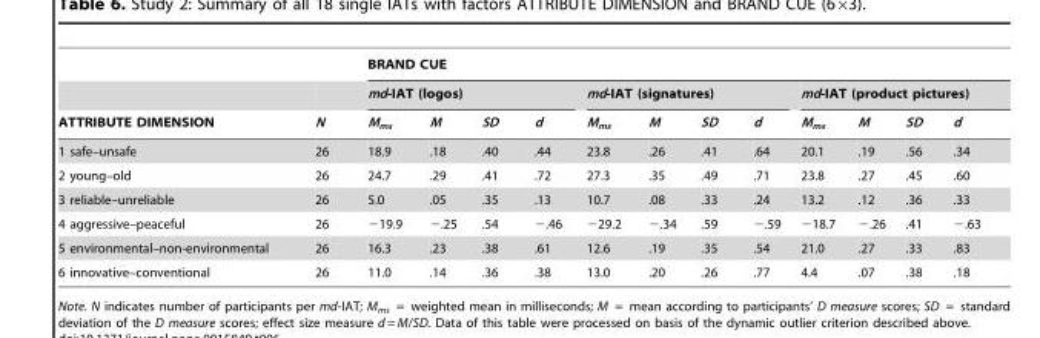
<table><thead><tr><td rowspan="3">ATTRIBUTE DIMENSION</td><td rowspan="3">N</td><td colspan="12">BRAND CUE</td></tr><tr><td colspan="4">md-IAT (logos)</td><td colspan="4">md-IAT (signatures)</td><td colspan="4">md-IAT (product pictures)</td></tr><tr><td>M<sub>ms</sub></td><td>M</td><td>SD</td><td>d</td><td>M<sub>ms</sub></td><td>M</td><td>SD</td><td>d</td><td>M<sub>ms</sub></td><td>M</td><td>SD</td><td>d</td></tr></thead><tbody><tr><td>1 safe–unsafe</td><td>26</td><td>18.9</td><td>.18</td><td>.40</td><td>.44</td><td>23.8</td><td>.26</td><td>.41</td><td>.64</td><td>20.1</td><td>.19</td><td>.56</td><td>.34</td></tr><tr><td>2 young–old</td><td>26</td><td>24.7</td><td>.29</td><td>.41</td><td>.72</td><td>27.3</td><td>.35</td><td>.49</td><td>.71</td><td>23.8</td><td>.27</td><td>.45</td><td>.60</td></tr><tr><td>3 reliable–unreliable</td><td>26</td><td>5.0</td><td>.05</td><td>.35</td><td>.13</td><td>10.7</td><td>.08</td><td>.33</td><td>.24</td><td>13.2</td><td>.12</td><td>.36</td><td>.33</td></tr><tr><td>4 aggressive–peaceful</td><td>26</td><td>−19.9</td><td>−.25</td><td>.54</td><td>−.46</td><td>−29.2</td><td>−.34</td><td>.59</td><td>−.59</td><td>−18.7</td><td>−.26</td><td>.41</td><td>−.63</td></tr><tr><td>5 environmental–non-environmental</td><td>26</td><td>16.3</td><td>.23</td><td>.38</td><td>.61</td><td>12.6</td><td>.19</td><td>.35</td><td>.54</td><td>21.0</td><td>.27</td><td>.33</td><td>.83</td></tr><tr><td>6 innovative–conventional</td><td>26</td><td>11.0</td><td>.14</td><td>.36</td><td>.38</td><td>13.0</td><td>.20</td><td>.26</td><td>.77</td><td>4.4</td><td>.07</td><td>.38</td><td>.18</td></tr></tbody></table>